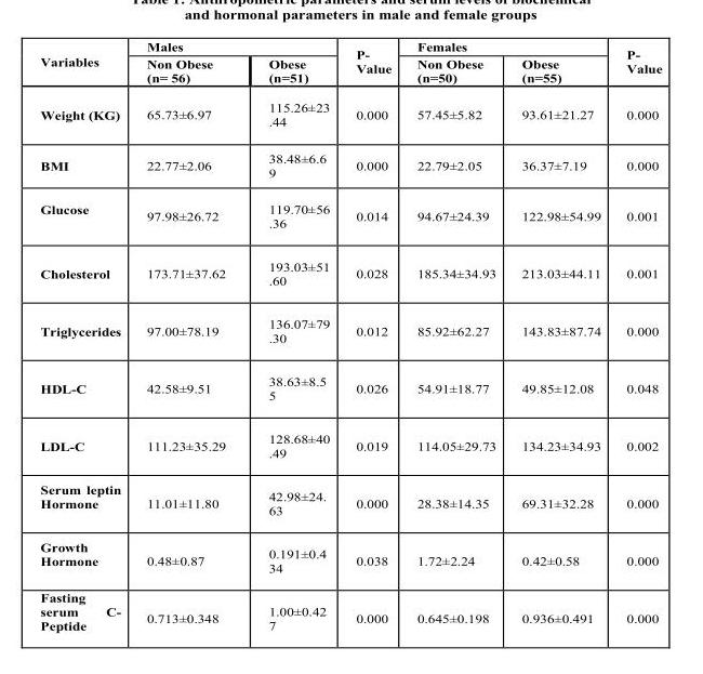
<table><thead><tr><td rowspan="2">Variables</td><td colspan="2">Males</td><td rowspan="2">P- Value</td><td colspan="2">Females</td><td rowspan="2">P- Value</td></tr><tr><td>Non Obese (n= 56)</td><td>Obese (n=51)</td><td>Non Obese (n=50)</td><td>Obese (n=55)</td></tr></thead><tbody><tr><td>Weight (KG)</td><td>65.73±6.97</td><td>115.26±23 .44</td><td>0.000</td><td>57.45±5.82</td><td>93.61±21.27</td><td>0.000</td></tr><tr><td>BMI</td><td>22.77±2.06</td><td>38.48±6.6 9</td><td>0.000</td><td>22.79±2.05</td><td>36.37±7.19</td><td>0.000</td></tr><tr><td>Glucose</td><td>97.98±26.72</td><td>119.70±56 .36</td><td>0.014</td><td>94.67±24.39</td><td>122.98±54.99</td><td>0.001</td></tr><tr><td>Cholesterol</td><td>173.71±37.62</td><td>193.03±51 .60</td><td>0.028</td><td>185.34±34.93</td><td>213.03±44.11</td><td>0.001</td></tr><tr><td>Triglycerides</td><td>97.00±78.19</td><td>136.07±79 .30</td><td>0.012</td><td>85.92±62.27</td><td>143.83±87.74</td><td>0.000</td></tr><tr><td>HDL-C</td><td>42.58±9.51</td><td>38.63±8.5 5</td><td>0.026</td><td>54.91±18.77</td><td>49.85±12.08</td><td>0.048</td></tr><tr><td>LDL-C</td><td>111.23±35.29</td><td>128.68±40 .49</td><td>0.019</td><td>114.05±29.73</td><td>134.23±34.93</td><td>0.002</td></tr><tr><td>Serum leptin Hormone</td><td>11.01±11.80</td><td>42.98±24. 63</td><td>0.000</td><td>28.38±14.35</td><td>69.31±32.28</td><td>0.000</td></tr><tr><td>Growth Hormone</td><td>0.48±0.87</td><td>0.191±0.4 34</td><td>0.038</td><td>1.72±2.24</td><td>0.42±0.58</td><td>0.000</td></tr><tr><td>Fasting serum C- Peptide</td><td>0.713±0.348</td><td>1.00±0.42 7</td><td>0.000</td><td>0.645±0.198</td><td>0.936±0.491</td><td>0.000</td></tr></tbody></table>